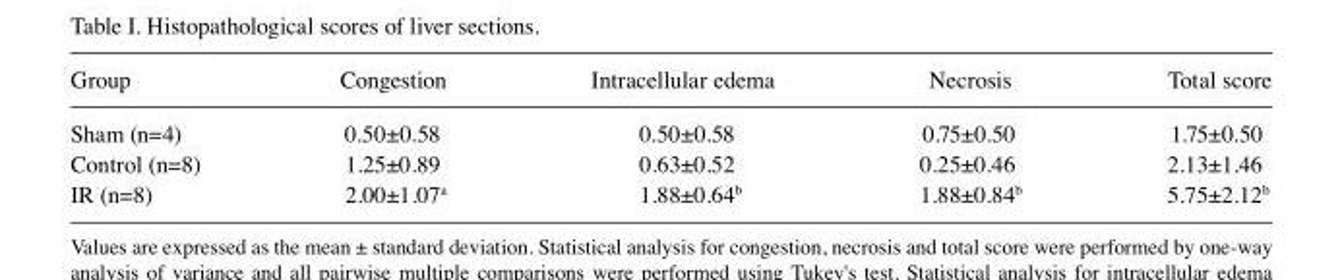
<table><thead><tr><td>Group</td><td>Congestion</td><td>Intracellular edema</td><td>Necrosis</td><td>Total score</td></tr></thead><tbody><tr><td>Sham (n=4)</td><td>0.50±0.58</td><td>0.50±0.58</td><td>0.75±0.50</td><td>1.75±0.50</td></tr><tr><td>Control (n=8)</td><td>1.25±0.89</td><td>0.63±0.52</td><td>0.25±0.46</td><td>2.13±1.46</td></tr><tr><td>IR (n=8)</td><td>2.00±1.07<sup>a</sup></td><td>1.88±0.64<sup>b</sup></td><td>1.88±0.84<sup>b</sup></td><td>5.75±2.12<sup>b</sup></td></tr></tbody></table>